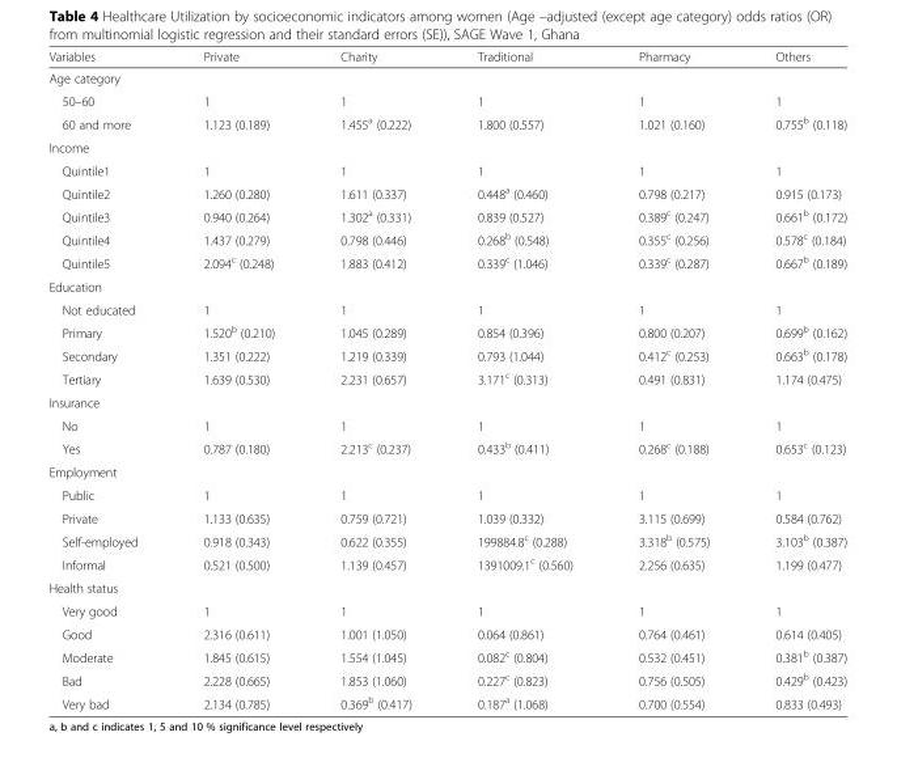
<table><thead><tr><td>Variables</td><td>Private</td><td>Charity</td><td>Traditional</td><td>Pharmacy</td><td>Others</td></tr></thead><tbody><tr><td colspan="6">Age category</td></tr><tr><td>50–60</td><td>1</td><td>1</td><td>1</td><td>1</td><td>1</td></tr><tr><td>60 and more</td><td>1.123 (0.189)</td><td>1.455<sup>a</sup> (0.222)</td><td>1.800 (0.557)</td><td>1.021 (0.160)</td><td>0.755<sup>b</sup> (0.118)</td></tr><tr><td colspan="6">Income</td></tr><tr><td>Quintile1</td><td>1</td><td>1</td><td>1</td><td>1</td><td>1</td></tr><tr><td>Quintile2</td><td>1.260 (0.280)</td><td>1.611 (0.337)</td><td>0.448<sup>a</sup> (0.460)</td><td>0.798 (0.217)</td><td>0.915 (0.173)</td></tr><tr><td>Quintile3</td><td>0.940 (0.264)</td><td>1.302<sup>a</sup> (0.331)</td><td>0.839 (0.527)</td><td>0.389<sup>c</sup> (0.247)</td><td>0.661<sup>b</sup> (0.172)</td></tr><tr><td>Quintile4</td><td>1.437 (0.279)</td><td>0.798 (0.446)</td><td>0.268<sup>b</sup> (0.548)</td><td>0.355<sup>c</sup> (0.256)</td><td>0.578<sup>c</sup> (0.184)</td></tr><tr><td>Quintile5</td><td>2.094<sup>c</sup> (0.248)</td><td>1.883 (0.412)</td><td>0.339<sup>c</sup> (1.046)</td><td>0.339<sup>c</sup> (0.287)</td><td>0.667<sup>b</sup> (0.189)</td></tr><tr><td colspan="6">Education</td></tr><tr><td>Not educated</td><td>1</td><td>1</td><td>1</td><td>1</td><td>1</td></tr><tr><td>Primary</td><td>1.520<sup>b</sup> (0.210)</td><td>1.045 (0.289)</td><td>0.854 (0.396)</td><td>0.800 (0.207)</td><td>0.699<sup>b</sup> (0.162)</td></tr><tr><td>Secondary</td><td>1.351 (0.222)</td><td>1.219 (0.339)</td><td>0.793 (1.044)</td><td>0.412<sup>c</sup> (0.253)</td><td>0.663<sup>b</sup> (0.178)</td></tr><tr><td>Tertiary</td><td>1.639 (0.530)</td><td>2.231 (0.657)</td><td>3.171<sup>c</sup> (0.313)</td><td>0.491 (0.831)</td><td>1.174 (0.475)</td></tr><tr><td colspan="6">Insurance</td></tr><tr><td>No</td><td>1</td><td>1</td><td>1</td><td>1</td><td>1</td></tr><tr><td>Yes</td><td>0.787 (0.180)</td><td>2.213<sup>c</sup> (0.237)</td><td>0.433<sup>b</sup> (0.411)</td><td>0.268<sup>c</sup> (0.188)</td><td>0.653<sup>c</sup> (0.123)</td></tr><tr><td colspan="6">Employment</td></tr><tr><td>Public</td><td>1</td><td>1</td><td>1</td><td>1</td><td>1</td></tr><tr><td>Private</td><td>1.133 (0.635)</td><td>0.759 (0.721)</td><td>1.039 (0.332)</td><td>3.115 (0.699)</td><td>0.584 (0.762)</td></tr><tr><td>Self-employed</td><td>0.918 (0.343)</td><td>0.622 (0.355)</td><td>199884.8<sup>c</sup> (0.288)</td><td>3.318<sup>b</sup> (0.575)</td><td>3.103<sup>b</sup> (0.387)</td></tr><tr><td>Informal</td><td>0.521 (0.500)</td><td>1.139 (0.457)</td><td>1391009.1<sup>c</sup> (0.560)</td><td>2.256 (0.635)</td><td>1.199 (0.477)</td></tr><tr><td colspan="6">Health status</td></tr><tr><td>Very good</td><td>1</td><td>1</td><td>1</td><td>1</td><td>1</td></tr><tr><td>Good</td><td>2.316 (0.611)</td><td>1.001 (1.050)</td><td>0.064 (0.861)</td><td>0.764 (0.461)</td><td>0.614 (0.405)</td></tr><tr><td>Moderate</td><td>1.845 (0.615)</td><td>1.554 (1.045)</td><td>0.082<sup>c</sup> (0.804)</td><td>0.532 (0.451)</td><td>0.381<sup>b</sup> (0.387)</td></tr><tr><td>Bad</td><td>2.228 (0.665)</td><td>1.853 (1.060)</td><td>0.227<sup>c</sup> (0.823)</td><td>0.756 (0.505)</td><td>0.429<sup>b</sup> (0.423)</td></tr><tr><td>Very bad</td><td>2.134 (0.785)</td><td>0.369<sup>b</sup> (0.417)</td><td>0.187<sup>a</sup> (1.068)</td><td>0.700 (0.554)</td><td>0.833 (0.493)</td></tr></tbody></table>